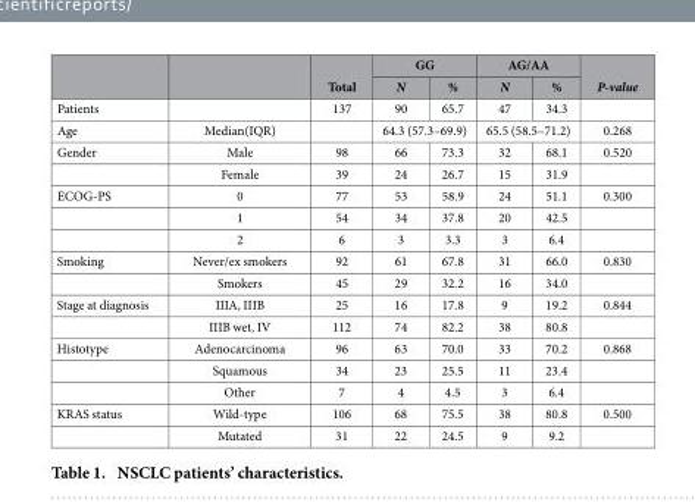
<table><thead><tr><td rowspan="2"></td><td rowspan="2"></td><td rowspan="2">Total</td><td colspan="2">GG</td><td colspan="2">AG/AA</td><td rowspan="2">P-value</td></tr><tr><td>N</td><td>%</td><td>N</td><td>%</td></tr></thead><tbody><tr><td>Patients</td><td></td><td>137</td><td>90</td><td>65.7</td><td>47</td><td>34.3</td><td></td></tr><tr><td>Age</td><td>Median(IQR)</td><td></td><td colspan="2">64.3 (57.3–69.9)</td><td colspan="2">65.5 (58.5–71.2)</td><td>0.268</td></tr><tr><td rowspan="2">Gender</td><td>Male</td><td>98</td><td>66</td><td>73.3</td><td>32</td><td>68.1</td><td>0.520</td></tr><tr><td>Female</td><td>39</td><td>24</td><td>26.7</td><td>15</td><td>31.9</td><td></td></tr><tr><td rowspan="3">ECOG-PS</td><td>0</td><td>77</td><td>53</td><td>58.9</td><td>24</td><td>51.1</td><td>0.300</td></tr><tr><td>1</td><td>54</td><td>34</td><td>37.8</td><td>20</td><td>42.5</td><td></td></tr><tr><td>2</td><td>6</td><td>3</td><td>3.3</td><td>3</td><td>6.4</td><td></td></tr><tr><td rowspan="2">Smoking</td><td>Never/ex smokers</td><td>92</td><td>61</td><td>67.8</td><td>31</td><td>66.0</td><td>0.830</td></tr><tr><td>Smokers</td><td>45</td><td>29</td><td>32.2</td><td>16</td><td>34.0</td><td></td></tr><tr><td rowspan="2">Stage at diagnosis</td><td>IIIA, IIIB</td><td>25</td><td>16</td><td>17.8</td><td>9</td><td>19.2</td><td>0.844</td></tr><tr><td>IIIB wet, IV</td><td>112</td><td>74</td><td>82.2</td><td>38</td><td>80.8</td><td></td></tr><tr><td rowspan="3">Histotype</td><td>Adenocarcinoma</td><td>96</td><td>63</td><td>70.0</td><td>33</td><td>70.2</td><td>0.868</td></tr><tr><td>Squamous</td><td>34</td><td>23</td><td>25.5</td><td>11</td><td>23.4</td><td></td></tr><tr><td>Other</td><td>7</td><td>4</td><td>4.5</td><td>3</td><td>6.4</td><td></td></tr><tr><td rowspan="2">KRAS status</td><td>Wild-type</td><td>106</td><td>68</td><td>75.5</td><td>38</td><td>80.8</td><td>0.500</td></tr><tr><td>Mutated</td><td>31</td><td>22</td><td>24.5</td><td>9</td><td>9.2</td><td></td></tr></tbody></table>